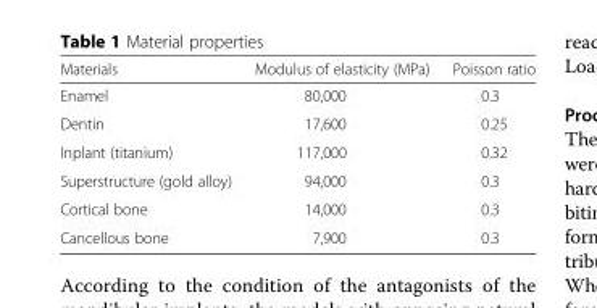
<table><thead><tr><td>Materials</td><td>Modulus of elasticity (MPa)</td><td>Poisson ratio</td></tr></thead><tbody><tr><td>Enamel</td><td>80,000</td><td>0.3</td></tr><tr><td>Dentin</td><td>17,600</td><td>0.25</td></tr><tr><td>Inplant (titanium)</td><td>117,000</td><td>0.32</td></tr><tr><td>Superstructure (gold alloy)</td><td>94,000</td><td>0.3</td></tr><tr><td>Cortical bone</td><td>14,000</td><td>0.3</td></tr><tr><td>Cancellous bone</td><td>7,900</td><td>0.3</td></tr></tbody></table>